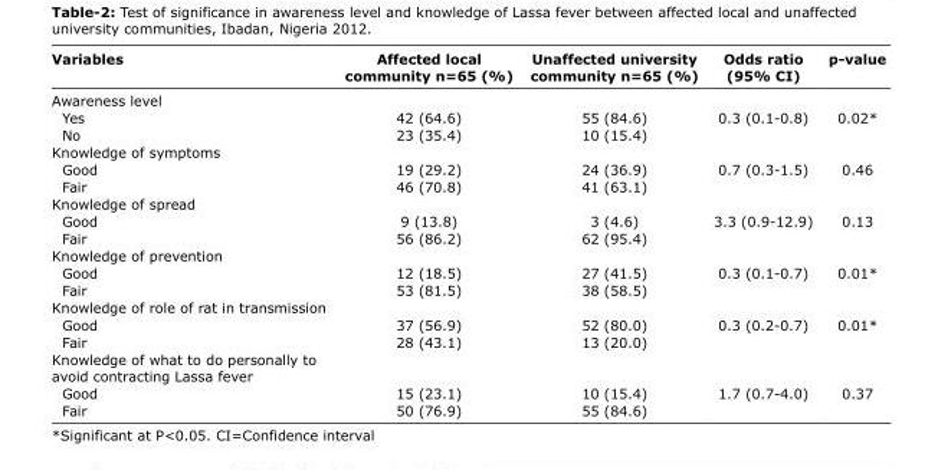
<table><thead><tr><td>Variables</td><td>Affected local community n=65 (%)</td><td>Unaffected university community n=65 (%)</td><td>Odds ratio (95% CI)</td><td>p-value</td></tr></thead><tbody><tr><td colspan="5">Awareness level</td></tr><tr><td>Yes</td><td>42 (64.6)</td><td>55 (84.6)</td><td>0.3 (0.1-0.8)</td><td>0.02*</td></tr><tr><td>No</td><td>23 (35.4)</td><td>10 (15.4)</td><td></td><td></td></tr><tr><td colspan="5">Knowledge of symptoms</td></tr><tr><td>Good</td><td>19 (29.2)</td><td>24 (36.9)</td><td>0.7 (0.3-1.5)</td><td>0.46</td></tr><tr><td>Fair</td><td>46 (70.8)</td><td>41 (63.1)</td><td></td><td></td></tr><tr><td colspan="5">Knowledge of spread</td></tr><tr><td>Good</td><td>9 (13.8)</td><td>3 (4.6)</td><td>3.3 (0.9-12.9)</td><td>0.13</td></tr><tr><td>Fair</td><td>56 (86.2)</td><td>62 (95.4)</td><td></td><td></td></tr><tr><td colspan="5">Knowledge of prevention</td></tr><tr><td>Good</td><td>12 (18.5)</td><td>27 (41.5)</td><td>0.3 (0.1-0.7)</td><td>0.01*</td></tr><tr><td>Fair</td><td>53 (81.5)</td><td>38 (58.5)</td><td></td><td></td></tr><tr><td colspan="5">Knowledge of role of rat in transmission</td></tr><tr><td>Good</td><td>37 (56.9)</td><td>52 (80.0)</td><td>0.3 (0.2-0.7)</td><td>0.01*</td></tr><tr><td>Fair</td><td>28 (43.1)</td><td>13 (20.0)</td><td></td><td></td></tr><tr><td colspan="5">Knowledge of what to do personally to avoid contracting Lassa fever</td></tr><tr><td>Good</td><td>15 (23.1)</td><td>10 (15.4)</td><td>1.7 (0.7-4.0)</td><td>0.37</td></tr><tr><td>Fair</td><td>50 (76.9)</td><td>55 (84.6)</td><td></td><td></td></tr></tbody></table>